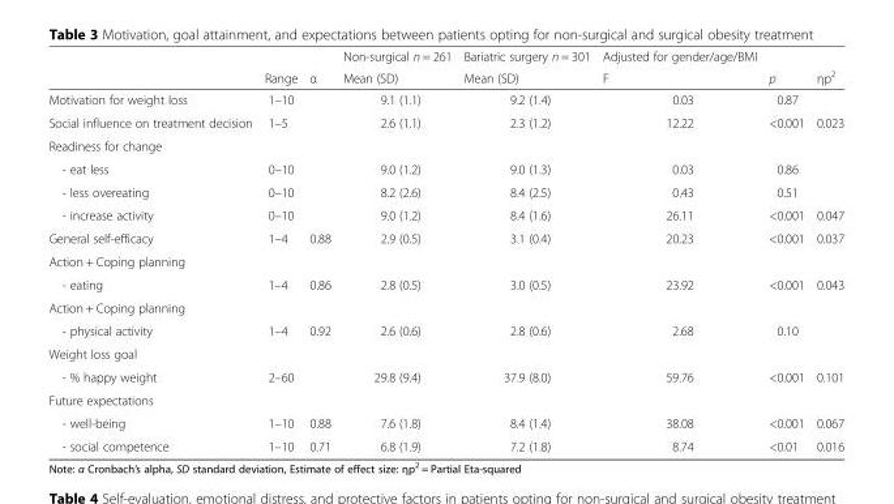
<table><thead><tr><td rowspan="2"></td><td rowspan="2">Range</td><td rowspan="2">α</td><td rowspan="2">Non-surgical n = 261 Mean (SD)</td><td rowspan="2">Bariatric surgery n = 301 Mean (SD)</td><td rowspan="2">Adjusted for gender/age/BMI F</td><td rowspan="2">p</td><td rowspan="2">ηp<sup>2</sup></td></tr><tr></tr></thead><tbody><tr><td>Motivation for weight loss</td><td>1–10</td><td></td><td>9.1 (1.1)</td><td>9.2 (1.4)</td><td>0.03</td><td>0.87</td><td></td></tr><tr><td>Social influence on treatment decision</td><td>1–5</td><td></td><td>2.6 (1.1)</td><td>2.3 (1.2)</td><td>12.22</td><td>&lt;0.001</td><td>0.023</td></tr><tr><td colspan="8">Readiness for change</td></tr><tr><td>- eat less</td><td>0–10</td><td></td><td>9.0 (1.2)</td><td>9.0 (1.3)</td><td>0.03</td><td>0.86</td><td></td></tr><tr><td>- less overeating</td><td>0–10</td><td></td><td>8.2 (2.6)</td><td>8.4 (2.5)</td><td>0.43</td><td>0.51</td><td></td></tr><tr><td>- increase activity</td><td>0–10</td><td></td><td>9.0 (1.2)</td><td>8.4 (1.6)</td><td>26.11</td><td>&lt;0.001</td><td>0.047</td></tr><tr><td>General self-efficacy</td><td>1–4</td><td>0.88</td><td>2.9 (0.5)</td><td>3.1 (0.4)</td><td>20.23</td><td>&lt;0.001</td><td>0.037</td></tr><tr><td colspan="8">Action + Coping planning</td></tr><tr><td>- eating</td><td>1–4</td><td>0.86</td><td>2.8 (0.5)</td><td>3.0 (0.5)</td><td>23.92</td><td>&lt;0.001</td><td>0.043</td></tr><tr><td colspan="8">Action + Coping planning</td></tr><tr><td>- physical activity</td><td>1–4</td><td>0.92</td><td>2.6 (0.6)</td><td>2.8 (0.6)</td><td>2.68</td><td>0.10</td><td></td></tr><tr><td colspan="8">Weight loss goal</td></tr><tr><td>- % happy weight</td><td>2–60</td><td></td><td>29.8 (9.4)</td><td>37.9 (8.0)</td><td>59.76</td><td>&lt;0.001</td><td>0.101</td></tr><tr><td colspan="8">Future expectations</td></tr><tr><td>- well-being</td><td>1–10</td><td>0.88</td><td>7.6 (1.8)</td><td>8.4 (1.4)</td><td>38.08</td><td>&lt;0.001</td><td>0.067</td></tr><tr><td>- social competence</td><td>1–10</td><td>0.71</td><td>6.8 (1.9)</td><td>7.2 (1.8)</td><td>8.74</td><td>&lt;0.01</td><td>0.016</td></tr></tbody></table>